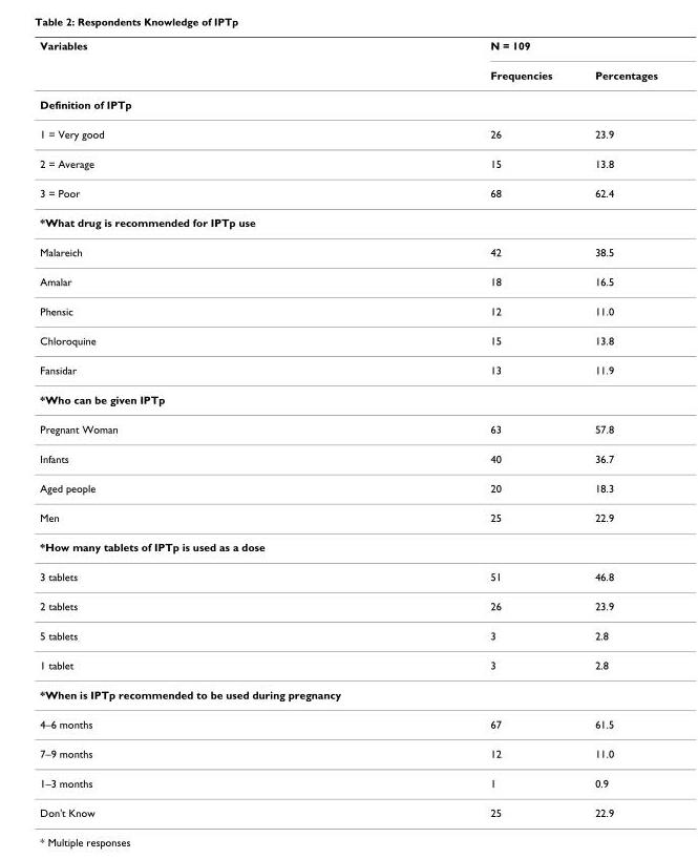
<table><thead><tr><td rowspan="2">Variables</td><td rowspan="2">N = 109 Frequencies</td><td rowspan="2">Percentages</td></tr><tr></tr></thead><tbody><tr><td colspan="3">Definition of IPTp</td></tr><tr><td>1 = Very good</td><td>26</td><td>23.9</td></tr><tr><td>2 = Average</td><td>15</td><td>13.8</td></tr><tr><td>3 = Poor</td><td>68</td><td>62.4</td></tr><tr><td colspan="3">*What drug is recommended for IPTp use</td></tr><tr><td>Malareich</td><td>42</td><td>38.5</td></tr><tr><td>Amalar</td><td>18</td><td>16.5</td></tr><tr><td>Phensic</td><td>12</td><td>11.0</td></tr><tr><td>Chloroquine</td><td>15</td><td>13.8</td></tr><tr><td>Fansidar</td><td>13</td><td>11.9</td></tr><tr><td colspan="3">*Who can be given IPTp</td></tr><tr><td>Pregnant Woman</td><td>63</td><td>57.8</td></tr><tr><td>Infants</td><td>40</td><td>36.7</td></tr><tr><td>Aged people</td><td>20</td><td>18.3</td></tr><tr><td>Men</td><td>25</td><td>22.9</td></tr><tr><td colspan="3">*How many tablets of IPTp is used as a dose</td></tr><tr><td>3 tablets</td><td>51</td><td>46.8</td></tr><tr><td>2 tablets</td><td>26</td><td>23.9</td></tr><tr><td>5 tablets</td><td>3</td><td>2.8</td></tr><tr><td>1 tablet</td><td>3</td><td>2.8</td></tr><tr><td colspan="3">*When is IPTp recommended to be used during pregnancy</td></tr><tr><td>4–6 months</td><td>67</td><td>61.5</td></tr><tr><td>7–9 months</td><td>12</td><td>11.0</td></tr><tr><td>1–3 months</td><td>1</td><td>0.9</td></tr><tr><td>Don&#x27;t Know</td><td>25</td><td>22.9</td></tr></tbody></table>